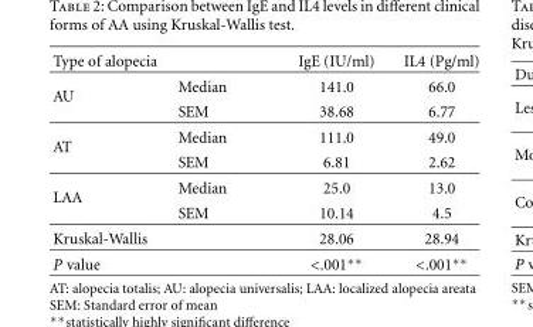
<table><thead><tr><td>Type of alopecia</td><td></td><td>IgE (IU/ml)</td><td>IL4 (Pg/ml)</td></tr></thead><tbody><tr><td rowspan="2">AU</td><td>Median</td><td>141.0</td><td>66.0</td></tr><tr><td>SEM</td><td>38.68</td><td>6.77</td></tr><tr><td rowspan="2">AT</td><td>Median</td><td>111.0</td><td>49.0</td></tr><tr><td>SEM</td><td>6.81</td><td>2.62</td></tr><tr><td rowspan="2">LAA</td><td>Median</td><td>25.0</td><td>13.0</td></tr><tr><td>SEM</td><td>10.14</td><td>4.5</td></tr><tr><td>Kruskal-Wallis</td><td></td><td>28.06</td><td>28.94</td></tr><tr><td>P value</td><td></td><td>&lt;.001∗∗</td><td>&lt;.001∗∗</td></tr></tbody></table>